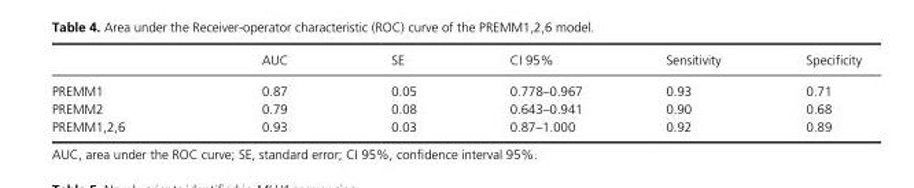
<table><thead><tr><td></td><td>AUC</td><td>SE</td><td>CI 95%</td><td>Sensitivity</td><td>Specificity</td></tr></thead><tbody><tr><td>PREMM1</td><td>0.87</td><td>0.05</td><td>0.778–0.967</td><td>0.93</td><td>0.71</td></tr><tr><td>PREMM2</td><td>0.79</td><td>0.08</td><td>0.643–0.941</td><td>0.90</td><td>0.68</td></tr><tr><td>PREMM1,2,6</td><td>0.93</td><td>0.03</td><td>0.87–1.000</td><td>0.92</td><td>0.89</td></tr></tbody></table>